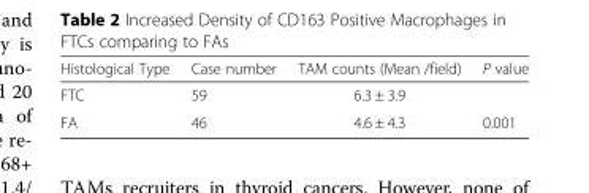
<table><thead><tr><td>Histological Type</td><td>Case number</td><td>TAM counts (Mean /field)</td><td>P value</td></tr></thead><tbody><tr><td>FTC</td><td>59</td><td>6.3 ± 3.9</td><td></td></tr><tr><td>FA</td><td>46</td><td>4.6 ± 4.3</td><td>0.001</td></tr></tbody></table>